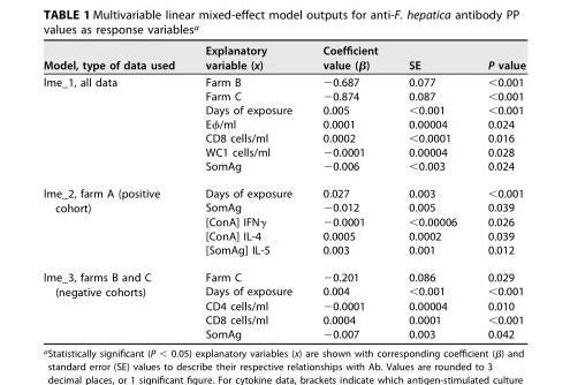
<table><thead><tr><td>Model, type of data used</td><td>Explanatory variable (x)</td><td>Coefficient value (β)</td><td>SE</td><td>P value</td></tr></thead><tbody><tr><td rowspan="7">lme_1, all data</td><td>Farm B</td><td>−0.687</td><td>0.077</td><td>&lt;0.001</td></tr><tr><td>Farm C</td><td>−0.874</td><td>0.087</td><td>&lt;0.001</td></tr><tr><td>Days of exposure</td><td>0.005</td><td>&lt;0.001</td><td>&lt;0.001</td></tr><tr><td>Eϕ/ml</td><td>0.0001</td><td>0.00004</td><td>0.024</td></tr><tr><td>CD8 cells/ml</td><td>0.0002</td><td>&lt;0.0001</td><td>0.016</td></tr><tr><td>WC1 cells/ml</td><td>−0.0001</td><td>0.00004</td><td>0.028</td></tr><tr><td>SomAg</td><td>−0.006</td><td>&lt;0.003</td><td>0.024</td></tr><tr><td rowspan="5">lme_2, farm A (positive cohort)</td><td>Days of exposure</td><td>0.027</td><td>0.003</td><td>&lt;0.001</td></tr><tr><td>SomAg</td><td>−0.012</td><td>0.005</td><td>0.039</td></tr><tr><td>[ConA] IFNγ</td><td>−0.0001</td><td>&lt;0.00006</td><td>0.026</td></tr><tr><td>[ConA] IL-4</td><td>0.0005</td><td>0.0002</td><td>0.039</td></tr><tr><td>[SomAg] IL-5</td><td>0.003</td><td>0.001</td><td>0.012</td></tr><tr><td rowspan="5">lme_3, farms B and C (negative cohorts)</td><td>Farm C</td><td>−0.201</td><td>0.086</td><td>0.029</td></tr><tr><td>Days of exposure</td><td>0.004</td><td>&lt;0.001</td><td>&lt;0.001</td></tr><tr><td>CD4 cells/ml</td><td>−0.0001</td><td>0.00004</td><td>0.010</td></tr><tr><td>CD8 cells/ml</td><td>0.0004</td><td>0.0001</td><td>&lt;0.001</td></tr><tr><td>SomAg</td><td>−0.007</td><td>0.003</td><td>0.042</td></tr></tbody></table>